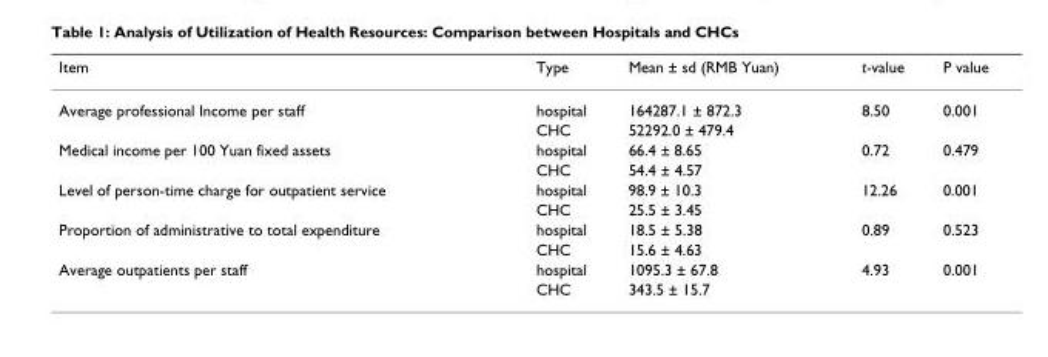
<table><thead><tr><td>Item</td><td>Type</td><td>Mean ± sd (RMB Yuan)</td><td>t-value</td><td>P value</td></tr></thead><tbody><tr><td rowspan="2">Average professional Income per staff</td><td>hospital</td><td>164287.1 ± 872.3</td><td>8.50</td><td>0.001</td></tr><tr><td>CHC</td><td>52292.0 ± 479.4</td><td></td><td></td></tr><tr><td rowspan="2">Medical income per 100 Yuan fixed assets</td><td>hospital</td><td>66.4 ± 8.65</td><td>0.72</td><td>0.479</td></tr><tr><td>CHC</td><td>54.4 ± 4.57</td><td></td><td></td></tr><tr><td rowspan="2">Level of person-time charge for outpatient service</td><td>hospital</td><td>98.9 ± 10.3</td><td>12.26</td><td>0.001</td></tr><tr><td>CHC</td><td>25.5 ± 3.45</td><td></td><td></td></tr><tr><td rowspan="2">Proportion of administrative to total expenditure</td><td>hospital</td><td>18.5 ± 5.38</td><td>0.89</td><td>0.523</td></tr><tr><td>CHC</td><td>15.6 ± 4.63</td><td></td><td></td></tr><tr><td rowspan="2">Average outpatients per staff</td><td>hospital</td><td>1095.3 ± 67.8</td><td>4.93</td><td>0.001</td></tr><tr><td>CHC</td><td>343.5 ± 15.7</td><td></td><td></td></tr></tbody></table>